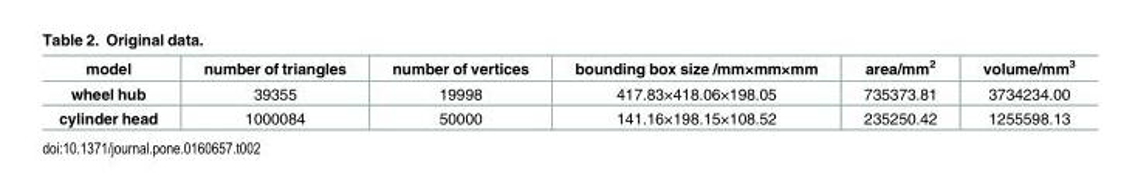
<table><thead><tr><td>model</td><td>number of triangles</td><td>number of vertices</td><td>bounding box size /mm×mm×mm</td><td>area/mm<sup>2</sup></td><td>volume/mm<sup>3</sup></td></tr></thead><tbody><tr><td>wheel hub</td><td>39355</td><td>19998</td><td>417.83×418.06×198.05</td><td>735373.81</td><td>3734234.00</td></tr><tr><td>cylinder head</td><td>1000084</td><td>50000</td><td>141.16×198.15×108.52</td><td>235250.42</td><td>1255598.13</td></tr></tbody></table>